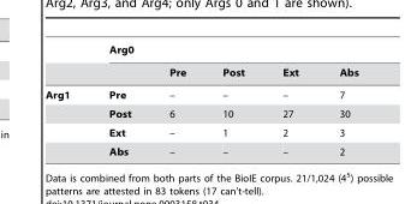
<table><thead><tr><td rowspan="2"></td><td colspan="5">Arg0</td></tr><tr><td></td><td>Pre</td><td>Post</td><td>Ext</td><td>Abs</td></tr></thead><tbody><tr><td rowspan="4">Arg1</td><td>Pre</td><td>–</td><td>–</td><td>–</td><td>7</td></tr><tr><td>Post</td><td>6</td><td>10</td><td>27</td><td>30</td></tr><tr><td>Ext</td><td>–</td><td>1</td><td>2</td><td>3</td></tr><tr><td>Abs</td><td>–</td><td>–</td><td>–</td><td>2</td></tr></tbody></table>